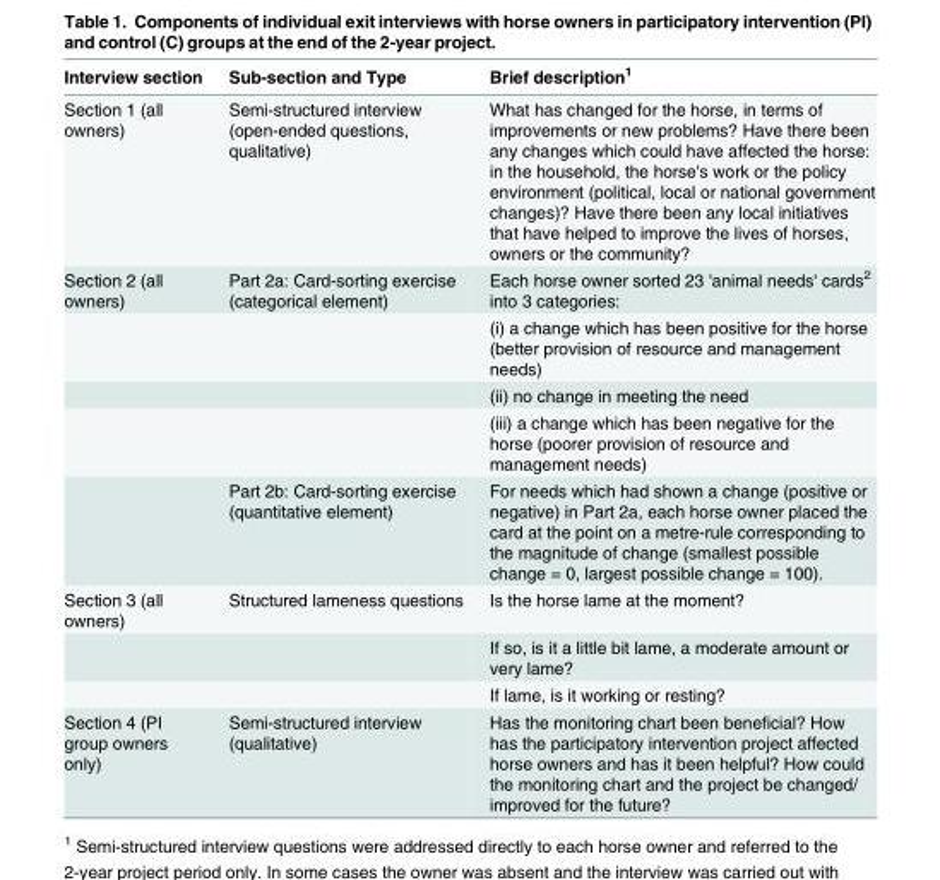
<table><thead><tr><td>Interview section</td><td>Sub-section and Type</td><td>Brief description<sup>1</sup></td></tr></thead><tbody><tr><td>Section 1 (all owners)</td><td>Semi-structured interview (open-ended questions, qualitative)</td><td>What has changed for the horse, in terms of improvements or new problems? Have there been any changes which could have affected the horse: in the household, the horse&#x27;s work or the policy environment (political, local or national government changes)? Have there been any local initiatives that have helped to improve the lives of horses, owners or the community?</td></tr><tr><td rowspan="5">Section 2 (all owners)</td><td>Part 2a: Card-sorting exercise (categorical element)</td><td>Each horse owner sorted 23 &#x27;animal needs&#x27; cards<sup>2</sup> into 3 categories:</td></tr><tr><td></td><td>(i) a change which has been positive for the horse (better provision of resource and management needs)</td></tr><tr><td></td><td>(ii) no change in meeting the need</td></tr><tr><td></td><td>(iii) a change which has been negative for the horse (poorer provision of resource and management needs)</td></tr><tr><td>Part 2b: Card-sorting exercise (quantitative element)</td><td>For needs which had shown a change (positive or negative) in Part 2a, each horse owner placed the card at the point on a metre-rule corresponding to the magnitude of change (smallest possible change = 0, largest possible change = 100).</td></tr><tr><td rowspan="3">Section 3 (all owners)</td><td>Structured lameness questions</td><td>Is the horse lame at the moment?</td></tr><tr><td></td><td>If so, is it a little bit lame, a moderate amount or very lame?</td></tr><tr><td></td><td>If lame, is it working or resting?</td></tr><tr><td>Section 4 (PI group owners only)</td><td>Semi-structured interview (qualitative)</td><td>Has the monitoring chart been beneficial? How has the participatory intervention project affected horse owners and has it been helpful? How could the monitoring chart and the project be changed/ improved for the future?</td></tr></tbody></table>